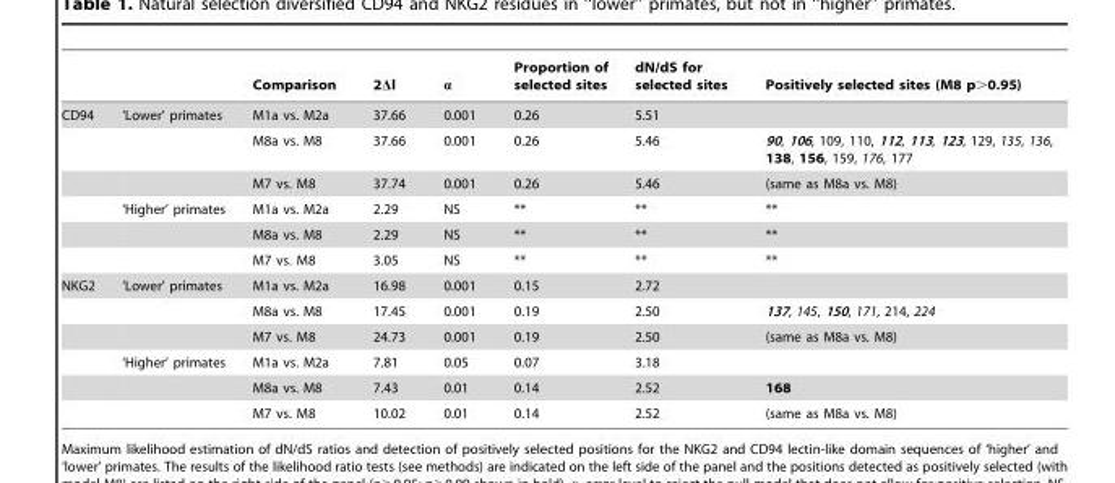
<table><thead><tr><td></td><td></td><td>Comparison</td><td>2Δl</td><td>α</td><td>Proportion of selected sites</td><td>dN/dS for selected sites</td><td>Positively selected sites (M8 p&gt;0.95)</td></tr></thead><tbody><tr><td rowspan="6">CD94</td><td>‘Lower’ primates</td><td>M1a vs. M2a</td><td>37.66</td><td>0.001</td><td>0.26</td><td>5.51</td><td></td></tr><tr><td></td><td>M8a vs. M8</td><td>37.66</td><td>0.001</td><td>0.26</td><td>5.46</td><td>90, 106, 109, 110, 112, 113, 123, 129, 135, 136, 138, 156, 159, 176, 177</td></tr><tr><td></td><td>M7 vs. M8</td><td>37.74</td><td>0.001</td><td>0.26</td><td>5.46</td><td>(same as M8a vs. M8)</td></tr><tr><td>‘Higher’ primates</td><td>M1a vs. M2a</td><td>2.29</td><td>NS</td><td>**</td><td>**</td><td>**</td></tr><tr><td></td><td>M8a vs. M8</td><td>2.29</td><td>NS</td><td>**</td><td>**</td><td>**</td></tr><tr><td></td><td>M7 vs. M8</td><td>3.05</td><td>NS</td><td>**</td><td>**</td><td>**</td></tr><tr><td rowspan="6">NKG2</td><td>‘Lower’ primates</td><td>M1a vs. M2a</td><td>16.98</td><td>0.001</td><td>0.15</td><td>2.72</td><td></td></tr><tr><td></td><td>M8a vs. M8</td><td>17.45</td><td>0.001</td><td>0.19</td><td>2.50</td><td>137, 145, 150, 171, 214, 224</td></tr><tr><td></td><td>M7 vs. M8</td><td>24.73</td><td>0.001</td><td>0.19</td><td>2.50</td><td>(same as M8a vs. M8)</td></tr><tr><td>‘Higher’ primates</td><td>M1a vs. M2a</td><td>7.81</td><td>0.05</td><td>0.07</td><td>3.18</td><td></td></tr><tr><td></td><td>M8a vs. M8</td><td>7.43</td><td>0.01</td><td>0.14</td><td>2.52</td><td>168</td></tr><tr><td></td><td>M7 vs. M8</td><td>10.02</td><td>0.01</td><td>0.14</td><td>2.52</td><td>(same as M8a vs. M8)</td></tr></tbody></table>